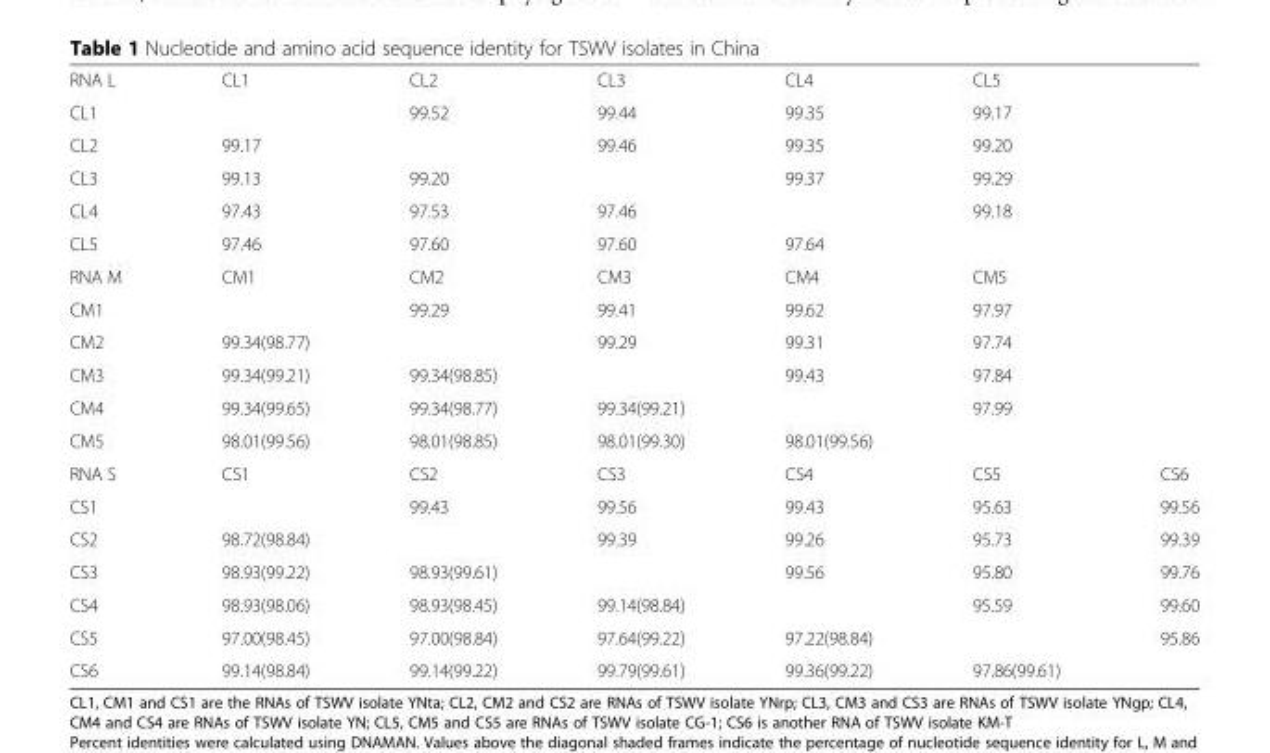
<table><tbody><tr><td>RNA L</td><td>CL1</td><td>CL2</td><td>CL3</td><td>CL4</td><td>CL5</td><td></td></tr><tr><td>CL1</td><td></td><td>99.52</td><td>99.44</td><td>99.35</td><td>99.17</td><td></td></tr><tr><td>CL2</td><td>99.17</td><td></td><td>99.46</td><td>99.35</td><td>99.20</td><td></td></tr><tr><td>CL3</td><td>99.13</td><td>99.20</td><td></td><td>99.37</td><td>99.29</td><td></td></tr><tr><td>CL4</td><td>97.43</td><td>97.53</td><td>97.46</td><td></td><td>99.18</td><td></td></tr><tr><td>CL5</td><td>97.46</td><td>97.60</td><td>97.60</td><td>97.64</td><td></td><td></td></tr><tr><td>RNA M</td><td>CM1</td><td>CM2</td><td>CM3</td><td>CM4</td><td>CM5</td><td></td></tr><tr><td>CM1</td><td></td><td>99.29</td><td>99.41</td><td>99.62</td><td>97.97</td><td></td></tr><tr><td>CM2</td><td>99.34(98.77)</td><td></td><td>99.29</td><td>99.31</td><td>97.74</td><td></td></tr><tr><td>CM3</td><td>99.34(99.21)</td><td>99.34(98.85)</td><td></td><td>99.43</td><td>97.84</td><td></td></tr><tr><td>CM4</td><td>99.34(99.65)</td><td>99.34(98.77)</td><td>99.34(99.21)</td><td></td><td>97.99</td><td></td></tr><tr><td>CM5</td><td>98.01(99.56)</td><td>98.01(98.85)</td><td>98.01(99.30)</td><td>98.01(99.56)</td><td></td><td></td></tr><tr><td>RNA S</td><td>CS1</td><td>CS2</td><td>CS3</td><td>CS4</td><td>CS5</td><td>CS6</td></tr><tr><td>CS1</td><td></td><td>99.43</td><td>99.56</td><td>99.43</td><td>95.63</td><td>99.56</td></tr><tr><td>CS2</td><td>98.72(98.84)</td><td></td><td>99.39</td><td>99.26</td><td>95.73</td><td>99.39</td></tr><tr><td>CS3</td><td>98.93(99.22)</td><td>98.93(99.61)</td><td></td><td>99.56</td><td>95.80</td><td>99.76</td></tr><tr><td>CS4</td><td>98.93(98.06)</td><td>98.93(98.45)</td><td>99.14(98.84)</td><td></td><td>95.59</td><td>99.60</td></tr><tr><td>CS5</td><td>97.00(98.45)</td><td>97.00(98.84)</td><td>97.64(99.22)</td><td>97.22(98.84)</td><td></td><td>95.86</td></tr><tr><td>CS6</td><td>99.14(98.84)</td><td>99.14(99.22)</td><td>99.79(99.61)</td><td>99.36(99.22)</td><td>97.86(99.61)</td><td></td></tr></tbody></table>